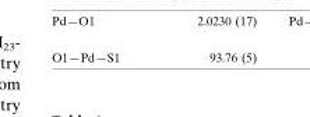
<table><tbody><tr><td>O1—Pd—S1</td><td>93.76 (5)</td></tr></tbody></table>